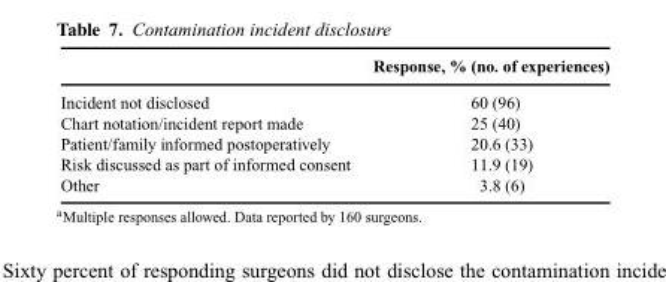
<table><thead><tr><td></td><td>Response, % (no. of experiences)</td></tr></thead><tbody><tr><td>Incident not disclosed</td><td>60 (96)</td></tr><tr><td>Chart notation/incident report made</td><td>25 (40)</td></tr><tr><td>Patient/family informed postoperatively</td><td>20.6 (33)</td></tr><tr><td>Risk discussed as part of informed consent</td><td>11.9 (19)</td></tr><tr><td>Other</td><td>3.8 (6)</td></tr><tr><td colspan="2"><sup>a</sup>Multiple responses allowed. Data reported by 160 surgeons.</td></tr></tbody></table>